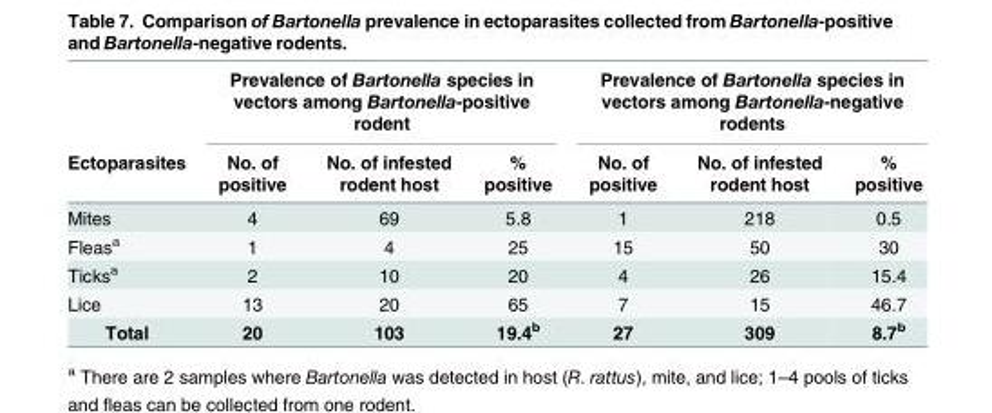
<table><thead><tr><td rowspan="2">Ectoparasites</td><td colspan="3">Prevalence of Bartonella species in vectors among Bartonella-positive rodent</td><td colspan="3">Prevalence of Bartonella species in vectors among Bartonella-negative rodents</td></tr><tr><td>No. of positive</td><td>No. of infested rodent host</td><td>% positive</td><td>No. of positive</td><td>No. of infested rodent host</td><td>% positive</td></tr></thead><tbody><tr><td>Mites</td><td>4</td><td>69</td><td>5.8</td><td>1</td><td>218</td><td>0.5</td></tr><tr><td>Fleas<sup>a</sup></td><td>1</td><td>4</td><td>25</td><td>15</td><td>50</td><td>30</td></tr><tr><td>Ticks<sup>a</sup></td><td>2</td><td>10</td><td>20</td><td>4</td><td>26</td><td>15.4</td></tr><tr><td>Lice</td><td>13</td><td>20</td><td>65</td><td>7</td><td>15</td><td>46.7</td></tr><tr><td>Total</td><td>20</td><td>103</td><td>19.4<sup>b</sup></td><td>27</td><td>309</td><td>8.7<sup>b</sup></td></tr></tbody></table>